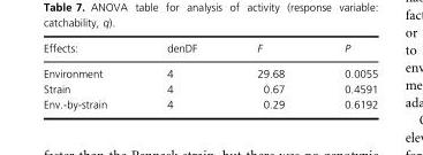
<table><thead><tr><td>Effects:</td><td>denDF</td><td>F</td><td>P</td></tr></thead><tbody><tr><td>Environment</td><td>4</td><td>29.68</td><td>0.0055</td></tr><tr><td>Strain</td><td>4</td><td>0.67</td><td>0.4591</td></tr><tr><td>Env.-by-strain</td><td>4</td><td>0.29</td><td>0.6192</td></tr></tbody></table>